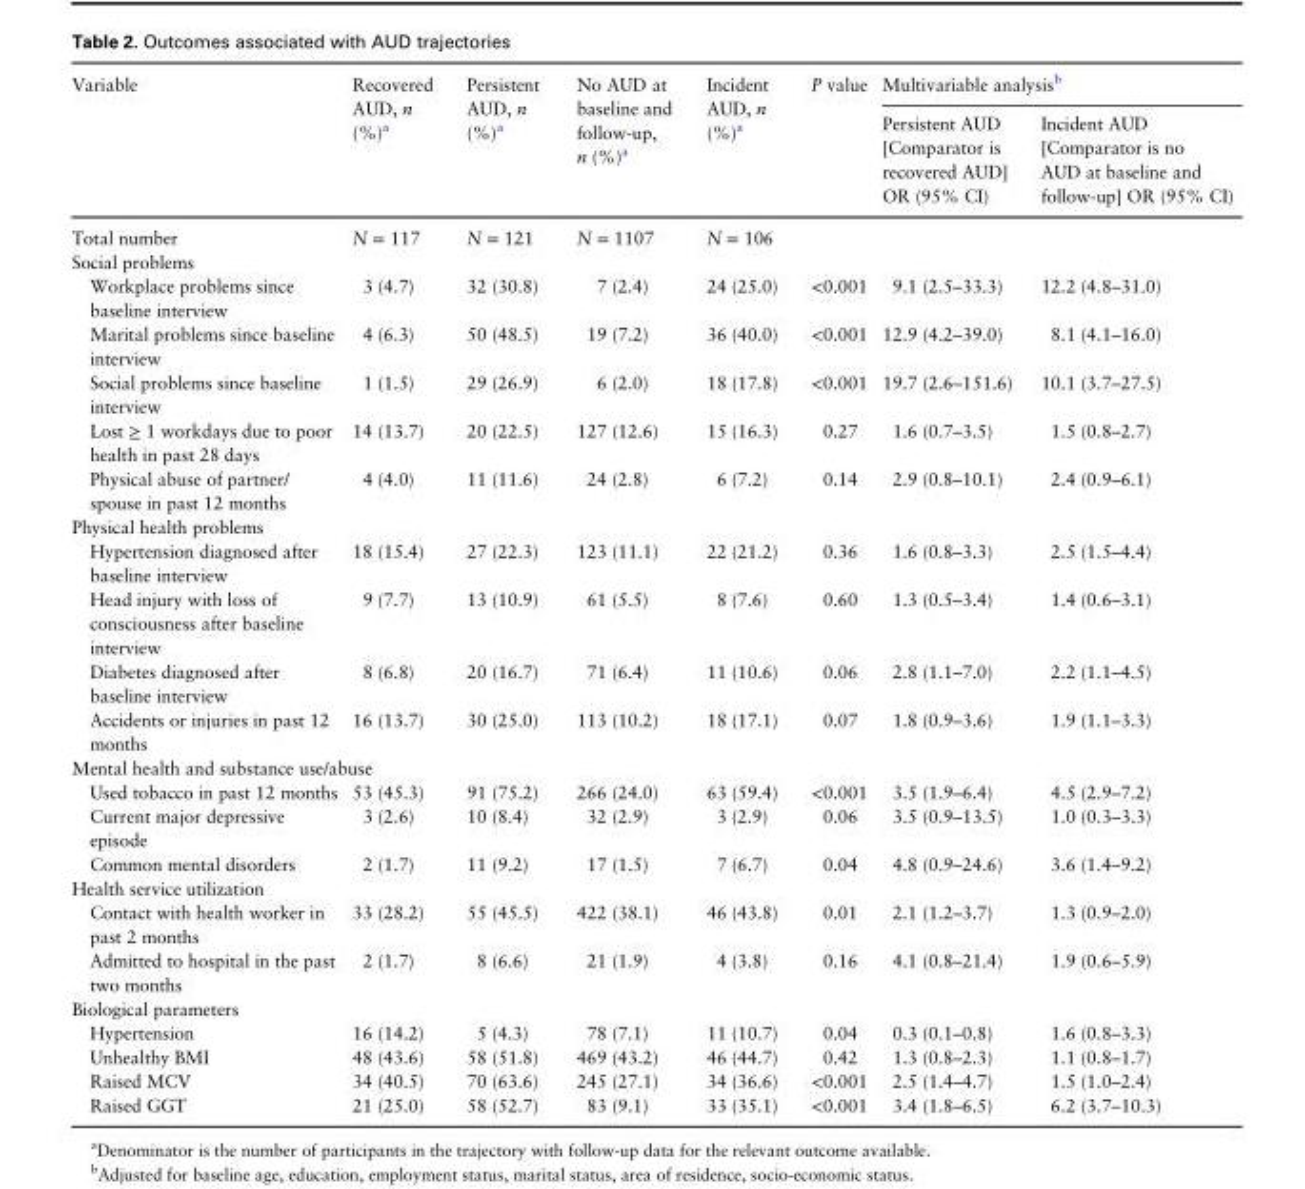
<table><thead><tr><td rowspan="2">Variable</td><td rowspan="2">Recovered AUD, n (%)<sup>a</sup></td><td rowspan="2">Persistent AUD, n (%)<sup>a</sup></td><td rowspan="2">No AUD at baseline and follow-up, n (%)<sup>a</sup></td><td rowspan="2">Incident AUD, n (%)<sup>a</sup></td><td rowspan="2">P value</td><td colspan="2">Multivariable analysis<sup>b</sup></td></tr><tr><td>Persistent AUD [Comparator is recovered AUD] OR (95% CI)</td><td>Incident AUD [Comparator is no AUD at baseline and follow-up] OR (95% CI)</td></tr></thead><tbody><tr><td>Total number</td><td>N = 117</td><td>N = 121</td><td>N = 1107</td><td>N = 106</td><td></td><td></td><td></td></tr><tr><td colspan="8">Social problems</td></tr><tr><td>Workplace problems since baseline interview</td><td>3 (4.7)</td><td>32 (30.8)</td><td>7 (2.4)</td><td>24 (25.0)</td><td>&lt;0.001</td><td>9.1 (2.5–33.3)</td><td>12.2 (4.8–31.0)</td></tr><tr><td>Marital problems since baseline interview</td><td>4 (6.3)</td><td>50 (48.5)</td><td>19 (7.2)</td><td>36 (40.0)</td><td>&lt;0.001</td><td>12.9 (4.2–39.0)</td><td>8.1 (4.1–16.0)</td></tr><tr><td>Social problems since baseline interview</td><td>1 (1.5)</td><td>29 (26.9)</td><td>6 (2.0)</td><td>18 (17.8)</td><td>&lt;0.001</td><td>19.7 (2.6–151.6)</td><td>10.1 (3.7–27.5)</td></tr><tr><td>Lost ≥ 1 workdays due to poor health in past 28 days</td><td>14 (13.7)</td><td>20 (22.5)</td><td>127 (12.6)</td><td>15 (16.3)</td><td>0.27</td><td>1.6 (0.7–3.5)</td><td>1.5 (0.8–2.7)</td></tr><tr><td>Physical abuse of partner/ spouse in past 12 months</td><td>4 (4.0)</td><td>11 (11.6)</td><td>24 (2.8)</td><td>6 (7.2)</td><td>0.14</td><td>2.9 (0.8–10.1)</td><td>2.4 (0.9–6.1)</td></tr><tr><td colspan="8">Physical health problems</td></tr><tr><td>Hypertension diagnosed after baseline interview</td><td>18 (15.4)</td><td>27 (22.3)</td><td>123 (11.1)</td><td>22 (21.2)</td><td>0.36</td><td>1.6 (0.8–3.3)</td><td>2.5 (1.5–4.4)</td></tr><tr><td>Head injury with loss of consciousness after baseline interview</td><td>9 (7.7)</td><td>13 (10.9)</td><td>61 (5.5)</td><td>8 (7.6)</td><td>0.60</td><td>1.3 (0.5–3.4)</td><td>1.4 (0.6–3.1)</td></tr><tr><td>Diabetes diagnosed after baseline interview</td><td>8 (6.8)</td><td>20 (16.7)</td><td>71 (6.4)</td><td>11 (10.6)</td><td>0.06</td><td>2.8 (1.1–7.0)</td><td>2.2 (1.1–4.5)</td></tr><tr><td>Accidents or injuries in past 12 months</td><td>16 (13.7)</td><td>30 (25.0)</td><td>113 (10.2)</td><td>18 (17.1)</td><td>0.07</td><td>1.8 (0.9–3.6)</td><td>1.9 (1.1–3.3)</td></tr><tr><td colspan="8">Mental health and substance use/abuse</td></tr><tr><td>Used tobacco in past 12 months</td><td>53 (45.3)</td><td>91 (75.2)</td><td>266 (24.0)</td><td>63 (59.4)</td><td>&lt;0.001</td><td>3.5 (1.9–6.4)</td><td>4.5 (2.9–7.2)</td></tr><tr><td>Current major depressive episode</td><td>3 (2.6)</td><td>10 (8.4)</td><td>32 (2.9)</td><td>3 (2.9)</td><td>0.06</td><td>3.5 (0.9–13.5)</td><td>1.0 (0.3–3.3)</td></tr><tr><td>Common mental disorders</td><td>2 (1.7)</td><td>11 (9.2)</td><td>17 (1.5)</td><td>7 (6.7)</td><td>0.04</td><td>4.8 (0.9–24.6)</td><td>3.6 (1.4–9.2)</td></tr><tr><td colspan="8">Health service utilization</td></tr><tr><td>Contact with health worker in past 2 months</td><td>33 (28.2)</td><td>55 (45.5)</td><td>422 (38.1)</td><td>46 (43.8)</td><td>0.01</td><td>2.1 (1.2–3.7)</td><td>1.3 (0.9–2.0)</td></tr><tr><td>Admitted to hospital in the past two months</td><td>2 (1.7)</td><td>8 (6.6)</td><td>21 (1.9)</td><td>4 (3.8)</td><td>0.16</td><td>4.1 (0.8–21.4)</td><td>1.9 (0.6–5.9)</td></tr><tr><td colspan="8">Biological parameters</td></tr><tr><td>Hypertension</td><td>16 (14.2)</td><td>5 (4.3)</td><td>78 (7.1)</td><td>11 (10.7)</td><td>0.04</td><td>0.3 (0.1–0.8)</td><td>1.6 (0.8–3.3)</td></tr><tr><td>Unhealthy BMI</td><td>48 (43.6)</td><td>58 (51.8)</td><td>469 (43.2)</td><td>46 (44.7)</td><td>0.42</td><td>1.3 (0.8–2.3)</td><td>1.1 (0.8–1.7)</td></tr><tr><td>Raised MCV</td><td>34 (40.5)</td><td>70 (63.6)</td><td>245 (27.1)</td><td>34 (36.6)</td><td>&lt;0.001</td><td>2.5 (1.4–4.7)</td><td>1.5 (1.0–2.4)</td></tr><tr><td>Raised GGT</td><td>21 (25.0)</td><td>58 (52.7)</td><td>83 (9.1)</td><td>33 (35.1)</td><td>&lt;0.001</td><td>3.4 (1.8–6.5)</td><td>6.2 (3.7–10.3)</td></tr></tbody></table>